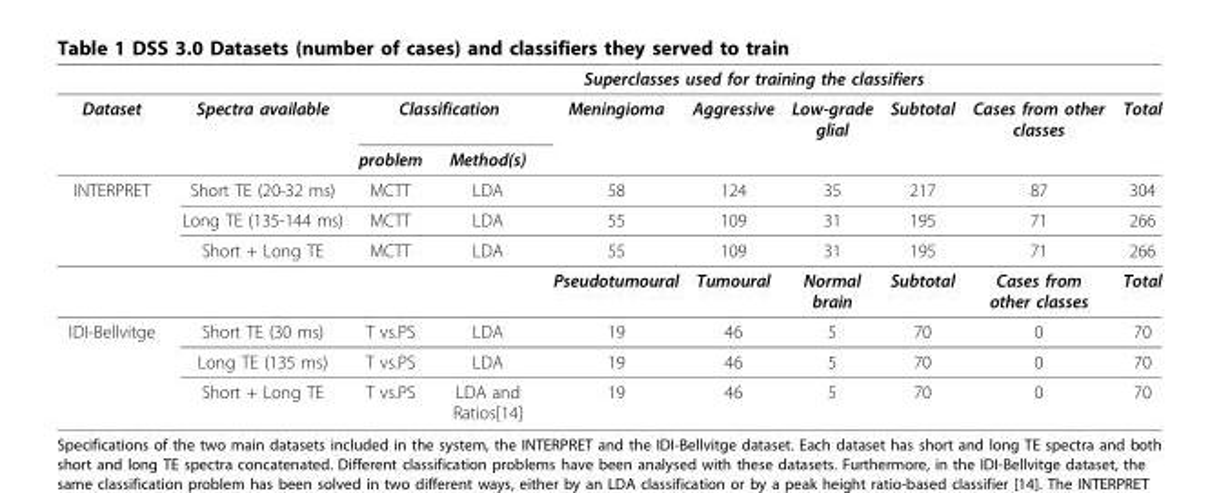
<table><thead><tr><td rowspan="2">Dataset</td><td rowspan="2">Spectra available</td><td></td><td></td><td colspan="4">Superclasses used for training the classifiers</td><td rowspan="2">Cases from other classes</td><td rowspan="2">Total</td></tr><tr><td colspan="2">Classification</td><td>Meningioma</td><td>Aggressive</td><td>Low-grade glial</td><td>Subtotal</td></tr></thead><tbody><tr><td></td><td></td><td>problem</td><td>Method(s)</td><td></td><td></td><td></td><td></td><td></td><td></td></tr><tr><td rowspan="4">INTERPRET</td><td>Short TE (20-32 ms)</td><td>MCTT</td><td>LDA</td><td>58</td><td>124</td><td>35</td><td>217</td><td>87</td><td>304</td></tr><tr><td>Long TE (135-144 ms)</td><td>MCTT</td><td>LDA</td><td>55</td><td>109</td><td>31</td><td>195</td><td>71</td><td>266</td></tr><tr><td>Short + Long TE</td><td>MCTT</td><td>LDA</td><td>55</td><td>109</td><td>31</td><td>195</td><td>71</td><td>266</td></tr><tr><td></td><td></td><td></td><td>Pseudotumoural</td><td>Tumoural</td><td>Normal brain</td><td>Subtotal</td><td>Cases from other classes</td><td>Total</td></tr><tr><td rowspan="3">IDI-Bellvitge</td><td>Short TE (30 ms)</td><td>T vs.PS</td><td>LDA</td><td>19</td><td>46</td><td>5</td><td>70</td><td>0</td><td>70</td></tr><tr><td>Long TE (135 ms)</td><td>T vs.PS</td><td>LDA</td><td>19</td><td>46</td><td>5</td><td>70</td><td>0</td><td>70</td></tr><tr><td>Short + Long TE</td><td>T vs.PS</td><td>LDA and Ratios[14]</td><td>19</td><td>46</td><td>5</td><td>70</td><td>0</td><td>70</td></tr></tbody></table>